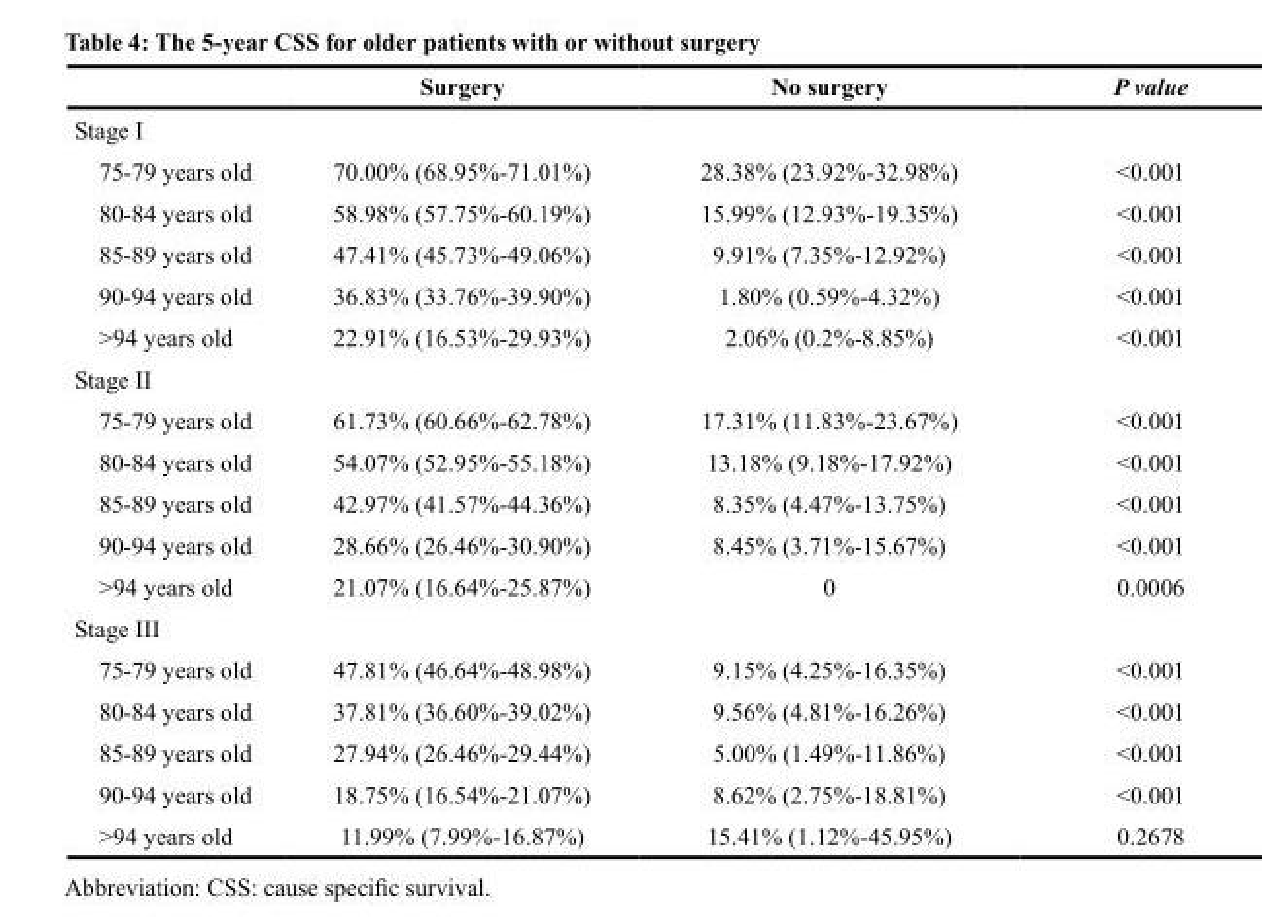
<table><thead><tr><td></td><td>Surgery</td><td>No surgery</td><td>P value</td></tr></thead><tbody><tr><td colspan="4">Stage I</td></tr><tr><td>75-79 years old</td><td>70.00% (68.95%-71.01%)</td><td>28.38% (23.92%-32.98%)</td><td>&lt;0.001</td></tr><tr><td>80-84 years old</td><td>58.98% (57.75%-60.19%)</td><td>15.99% (12.93%-19.35%)</td><td>&lt;0.001</td></tr><tr><td>85-89 years old</td><td>47.41% (45.73%-49.06%)</td><td>9.91% (7.35%-12.92%)</td><td>&lt;0.001</td></tr><tr><td>90-94 years old</td><td>36.83% (33.76%-39.90%)</td><td>1.80% (0.59%-4.32%)</td><td>&lt;0.001</td></tr><tr><td>&gt;94 years old</td><td>22.91% (16.53%-29.93%)</td><td>2.06% (0.2%-8.85%)</td><td>&lt;0.001</td></tr><tr><td colspan="4">Stage II</td></tr><tr><td>75-79 years old</td><td>61.73% (60.66%-62.78%)</td><td>17.31% (11.83%-23.67%)</td><td>&lt;0.001</td></tr><tr><td>80-84 years old</td><td>54.07% (52.95%-55.18%)</td><td>13.18% (9.18%-17.92%)</td><td>&lt;0.001</td></tr><tr><td>85-89 years old</td><td>42.97% (41.57%-44.36%)</td><td>8.35% (4.47%-13.75%)</td><td>&lt;0.001</td></tr><tr><td>90-94 years old</td><td>28.66% (26.46%-30.90%)</td><td>8.45% (3.71%-15.67%)</td><td>&lt;0.001</td></tr><tr><td>&gt;94 years old</td><td>21.07% (16.64%-25.87%)</td><td>0</td><td>0.0006</td></tr><tr><td colspan="4">Stage III</td></tr><tr><td>75-79 years old</td><td>47.81% (46.64%-48.98%)</td><td>9.15% (4.25%-16.35%)</td><td>&lt;0.001</td></tr><tr><td>80-84 years old</td><td>37.81% (36.60%-39.02%)</td><td>9.56% (4.81%-16.26%)</td><td>&lt;0.001</td></tr><tr><td>85-89 years old</td><td>27.94% (26.46%-29.44%)</td><td>5.00% (1.49%-11.86%)</td><td>&lt;0.001</td></tr><tr><td>90-94 years old</td><td>18.75% (16.54%-21.07%)</td><td>8.62% (2.75%-18.81%)</td><td>&lt;0.001</td></tr><tr><td>&gt;94 years old</td><td>11.99% (7.99%-16.87%)</td><td>15.41% (1.12%-45.95%)</td><td>0.2678</td></tr></tbody></table>